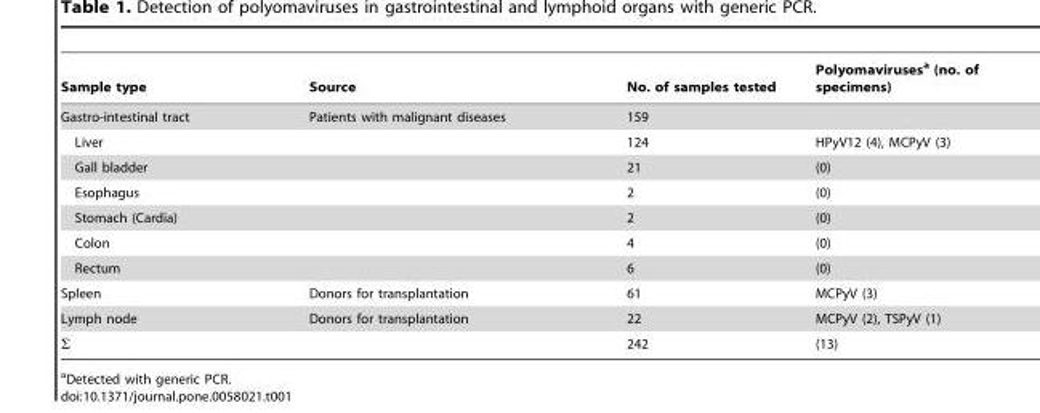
<table><thead><tr><td>Sample type</td><td>Source</td><td>No. of samples tested</td><td>Polyomaviruses<sup>a</sup> (no. of specimens)</td></tr></thead><tbody><tr><td>Gastro-intestinal tract</td><td>Patients with malignant diseases</td><td>159</td><td></td></tr><tr><td>Liver</td><td></td><td>124</td><td>HPyV12 (4), MCPyV (3)</td></tr><tr><td>Gall bladder</td><td></td><td>21</td><td>(0)</td></tr><tr><td>Esophagus</td><td></td><td>2</td><td>(0)</td></tr><tr><td>Stomach (Cardia)</td><td></td><td>2</td><td>(0)</td></tr><tr><td>Colon</td><td></td><td>4</td><td>(0)</td></tr><tr><td>Rectum</td><td></td><td>6</td><td>(0)</td></tr><tr><td>Spleen</td><td>Donors for transplantation</td><td>61</td><td>MCPyV (3)</td></tr><tr><td>Lymph node</td><td>Donors for transplantation</td><td>22</td><td>MCPyV (2), TSPyV (1)</td></tr><tr><td>Σ</td><td></td><td>242</td><td>(13)</td></tr></tbody></table>